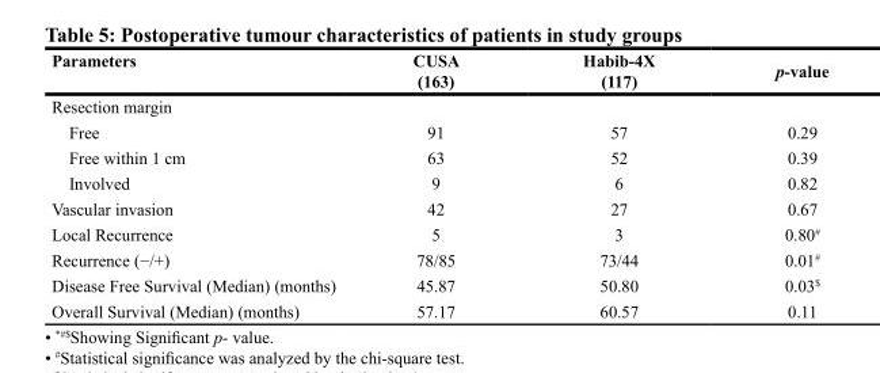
<table><thead><tr><td>Parameters</td><td>CUSA (163)</td><td>Habib-4X (117)</td><td>p-value</td></tr></thead><tbody><tr><td colspan="4">Resection margin</td></tr><tr><td>Free</td><td>91</td><td>57</td><td>0.29</td></tr><tr><td>Free within 1 cm</td><td>63</td><td>52</td><td>0.39</td></tr><tr><td>Involved</td><td>9</td><td>6</td><td>0.82</td></tr><tr><td>Vascular invasion</td><td>42</td><td>27</td><td>0.67</td></tr><tr><td>Local Recurrence</td><td>5</td><td>3</td><td>0.80<sup>#</sup></td></tr><tr><td>Recurrence (−/+)</td><td>78/85</td><td>73/44</td><td>0.01<sup>#</sup></td></tr><tr><td>Disease Free Survival (Median) (months)</td><td>45.87</td><td>50.80</td><td>0.03<sup>$</sup></td></tr><tr><td>Overall Survival (Median) (months)</td><td>57.17</td><td>60.57</td><td>0.11</td></tr></tbody></table>